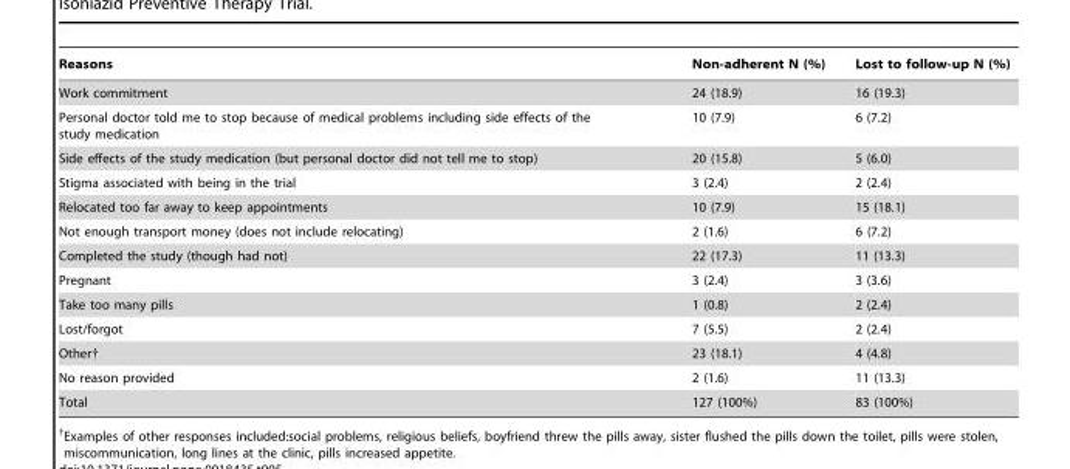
<table><thead><tr><td>Reasons</td><td>Non-adherent N (%)</td><td>Lost to follow-up N (%)</td></tr></thead><tbody><tr><td>Work commitment</td><td>24 (18.9)</td><td>16 (19.3)</td></tr><tr><td>Personal doctor told me to stop because of medical problems including side effects of the study medication</td><td>10 (7.9)</td><td>6 (7.2)</td></tr><tr><td>Side effects of the study medication (but personal doctor did not tell me to stop)</td><td>20 (15.8)</td><td>5 (6.0)</td></tr><tr><td>Stigma associated with being in the trial</td><td>3 (2.4)</td><td>2 (2.4)</td></tr><tr><td>Relocated too far away to keep appointments</td><td>10 (7.9)</td><td>15 (18.1)</td></tr><tr><td>Not enough transport money (does not include relocating)</td><td>2 (1.6)</td><td>6 (7.2)</td></tr><tr><td>Completed the study (though had not)</td><td>22 (17.3)</td><td>11 (13.3)</td></tr><tr><td>Pregnant</td><td>3 (2.4)</td><td>3 (3.6)</td></tr><tr><td>Take too many pills</td><td>1 (0.8)</td><td>2 (2.4)</td></tr><tr><td>Lost/forgot</td><td>7 (5.5)</td><td>2 (2.4)</td></tr><tr><td>Other†</td><td>23 (18.1)</td><td>4 (4.8)</td></tr><tr><td>No reason provided</td><td>2 (1.6)</td><td>11 (13.3)</td></tr><tr><td>Total</td><td>127 (100%)</td><td>83 (100%)</td></tr></tbody></table>